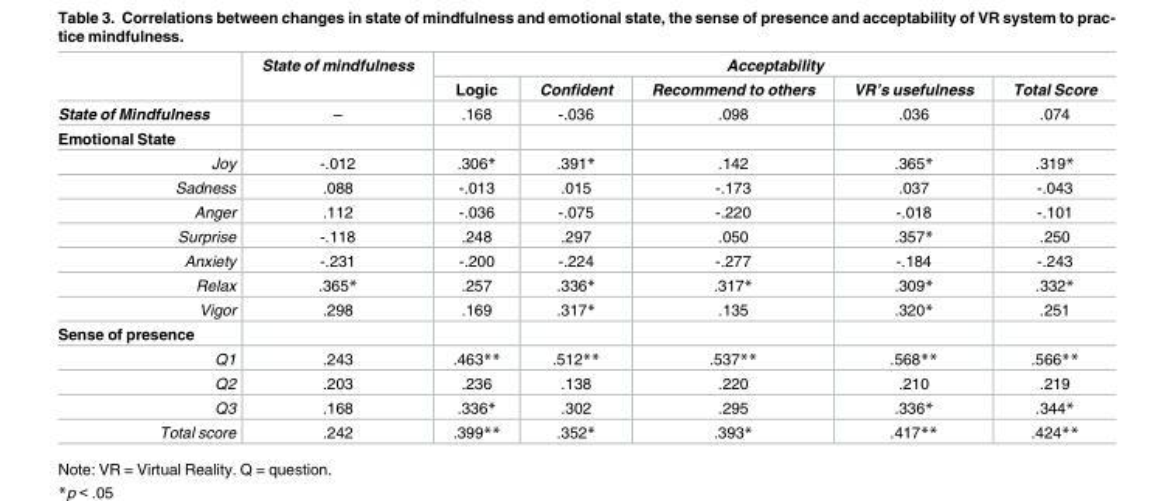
<table><thead><tr><td rowspan="2"></td><td rowspan="2">State of mindfulness</td><td colspan="5">Acceptability</td></tr><tr><td>Logic</td><td>Confident</td><td>Recommend to others</td><td>VR’s usefulness</td><td>Total Score</td></tr></thead><tbody><tr><td>State of Mindfulness</td><td>–</td><td>.168</td><td>-.036</td><td>.098</td><td>.036</td><td>.074</td></tr><tr><td colspan="7">Emotional State</td></tr><tr><td>Joy</td><td>-.012</td><td>.306*</td><td>.391*</td><td>.142</td><td>.365*</td><td>.319*</td></tr><tr><td>Sadness</td><td>.088</td><td>-.013</td><td>.015</td><td>-.173</td><td>.037</td><td>-.043</td></tr><tr><td>Anger</td><td>.112</td><td>-.036</td><td>-.075</td><td>-.220</td><td>-.018</td><td>-.101</td></tr><tr><td>Surprise</td><td>-.118</td><td>.248</td><td>.297</td><td>.050</td><td>.357*</td><td>.250</td></tr><tr><td>Anxiety</td><td>-.231</td><td>-.200</td><td>-.224</td><td>-.277</td><td>-.184</td><td>-.243</td></tr><tr><td>Relax</td><td>.365*</td><td>.257</td><td>.336*</td><td>.317*</td><td>.309*</td><td>.332*</td></tr><tr><td>Vigor</td><td>.298</td><td>.169</td><td>.317*</td><td>.135</td><td>.320*</td><td>.251</td></tr><tr><td colspan="7">Sense of presence</td></tr><tr><td>Q1</td><td>.243</td><td>.463**</td><td>.512**</td><td>.537**</td><td>.568**</td><td>.566**</td></tr><tr><td>Q2</td><td>.203</td><td>.236</td><td>.138</td><td>.220</td><td>.210</td><td>.219</td></tr><tr><td>Q3</td><td>.168</td><td>.336*</td><td>.302</td><td>.295</td><td>.336*</td><td>.344*</td></tr><tr><td>Total score</td><td>.242</td><td>.399**</td><td>.352*</td><td>.393*</td><td>.417**</td><td>.424**</td></tr></tbody></table>